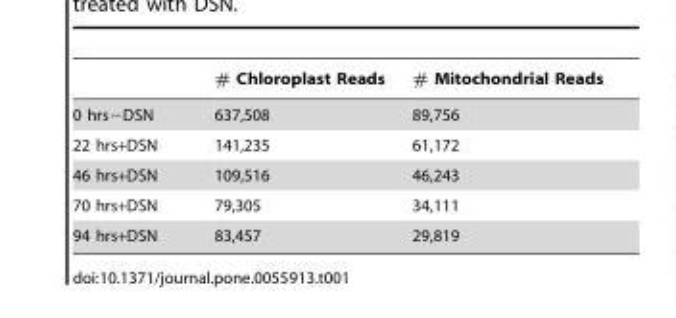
<table><thead><tr><td></td><td># Chloroplast Reads</td><td># Mitochondrial Reads</td></tr></thead><tbody><tr><td>0 hrs−DSN</td><td>637,508</td><td>89,756</td></tr><tr><td>22 hrs+DSN</td><td>141,235</td><td>61,172</td></tr><tr><td>46 hrs+DSN</td><td>109,516</td><td>46,243</td></tr><tr><td>70 hrs+DSN</td><td>79,305</td><td>34,111</td></tr><tr><td>94 hrs+DSN</td><td>83,457</td><td>29,819</td></tr></tbody></table>